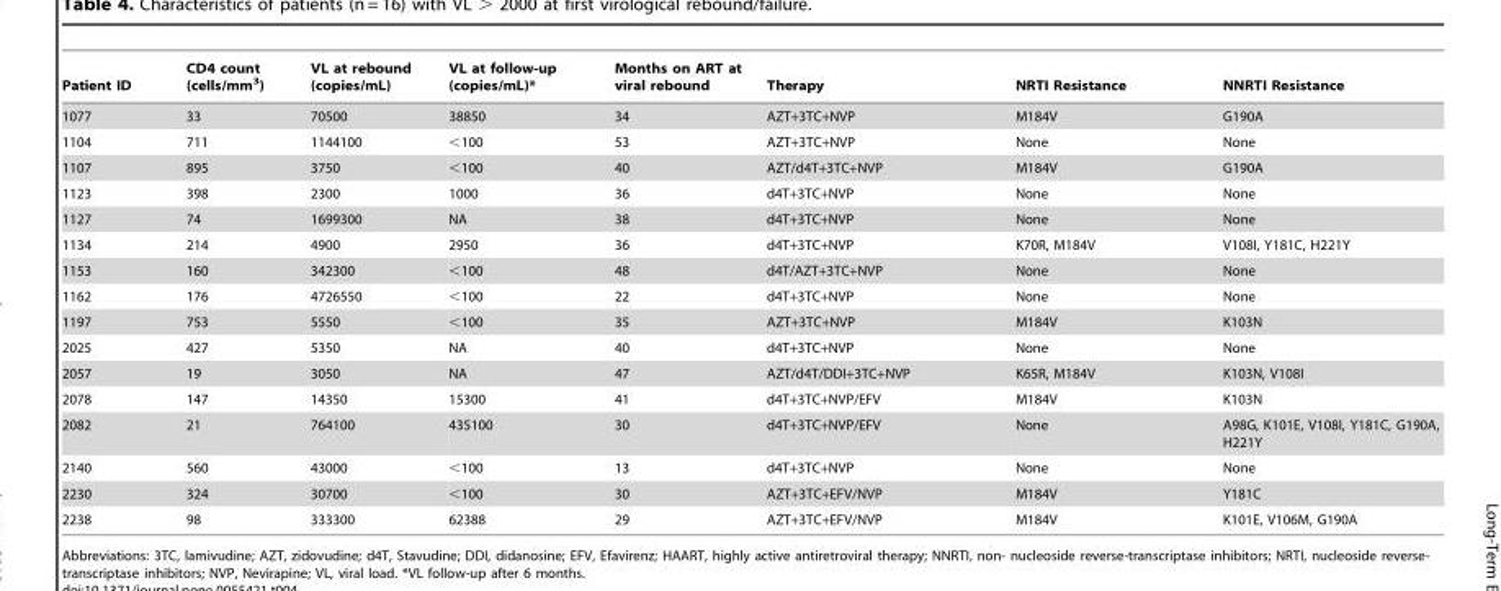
<table><thead><tr><td>Patient ID</td><td>CD4 count (cells/mm<sup>3</sup>)</td><td>VL at rebound (copies/mL)</td><td>VL at follow-up (copies/mL)*</td><td>Months on ART at viral rebound</td><td>Therapy</td><td>NRTI Resistance</td><td>NNRTI Resistance</td></tr></thead><tbody><tr><td>1077</td><td>33</td><td>70500</td><td>38850</td><td>34</td><td>AZT+3TC+NVP</td><td>M184V</td><td>G190A</td></tr><tr><td>1104</td><td>711</td><td>1144100</td><td>&lt;100</td><td>53</td><td>AZT+3TC+NVP</td><td>None</td><td>None</td></tr><tr><td>1107</td><td>895</td><td>3750</td><td>&lt;100</td><td>40</td><td>AZT/d4T+3TC+NVP</td><td>M184V</td><td>G190A</td></tr><tr><td>1123</td><td>398</td><td>2300</td><td>1000</td><td>36</td><td>d4T+3TC+NVP</td><td>None</td><td>None</td></tr><tr><td>1127</td><td>74</td><td>1699300</td><td>NA</td><td>38</td><td>d4T+3TC+NVP</td><td>None</td><td>None</td></tr><tr><td>1134</td><td>214</td><td>4900</td><td>2950</td><td>36</td><td>d4T+3TC+NVP</td><td>K70R, M184V</td><td>V108I, Y181C, H221Y</td></tr><tr><td>1153</td><td>160</td><td>342300</td><td>&lt;100</td><td>48</td><td>d4T/AZT+3TC+NVP</td><td>None</td><td>None</td></tr><tr><td>1162</td><td>176</td><td>4726550</td><td>&lt;100</td><td>22</td><td>d4T+3TC+NVP</td><td>None</td><td>None</td></tr><tr><td>1197</td><td>753</td><td>5550</td><td>&lt;100</td><td>35</td><td>AZT+3TC+NVP</td><td>M184V</td><td>K103N</td></tr><tr><td>2025</td><td>427</td><td>5350</td><td>NA</td><td>40</td><td>d4T+3TC+NVP</td><td>None</td><td>None</td></tr><tr><td>2057</td><td>19</td><td>3050</td><td>NA</td><td>47</td><td>AZT/d4T/DDI+3TC+NVP</td><td>K65R, M184V</td><td>K103N, V108I</td></tr><tr><td>2078</td><td>147</td><td>14350</td><td>15300</td><td>41</td><td>d4T+3TC+NVP/EFV</td><td>M184V</td><td>K103N</td></tr><tr><td>2082</td><td>21</td><td>764100</td><td>435100</td><td>30</td><td>d4T+3TC+NVP/EFV</td><td>None</td><td>A98G, K101E, V108I, Y181C, G190A, H221Y</td></tr><tr><td>2140</td><td>560</td><td>43000</td><td>&lt;100</td><td>13</td><td>d4T+3TC+NVP</td><td>None</td><td>None</td></tr><tr><td>2230</td><td>324</td><td>30700</td><td>&lt;100</td><td>30</td><td>AZT+3TC+EFV/NVP</td><td>M184V</td><td>Y181C</td></tr><tr><td>2238</td><td>98</td><td>333300</td><td>62388</td><td>29</td><td>AZT+3TC+EFV/NVP</td><td>M184V</td><td>K101E, V106M, G190A</td></tr></tbody></table>